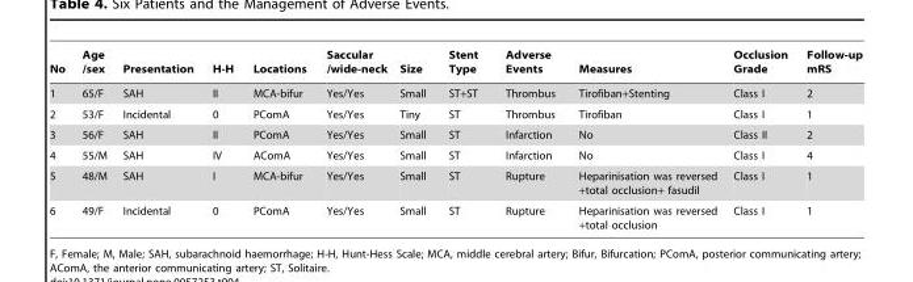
<table><thead><tr><td>No</td><td>Age /sex</td><td>Presentation</td><td>H-H</td><td>Locations</td><td>Saccular /wide-neck</td><td>Size</td><td>Stent Type</td><td>Adverse Events</td><td>Measures</td><td>Occlusion Grade</td><td>Follow-up mRS</td></tr></thead><tbody><tr><td>1</td><td>65/F</td><td>SAH</td><td>II</td><td>MCA-bifur</td><td>Yes/Yes</td><td>Small</td><td>ST+ST</td><td>Thrombus</td><td>Tirofiban+Stenting</td><td>Class I</td><td>2</td></tr><tr><td>2</td><td>53/F</td><td>Incidental</td><td>0</td><td>PComA</td><td>Yes/Yes</td><td>Tiny</td><td>ST</td><td>Thrombus</td><td>Tirofiban</td><td>Class I</td><td>1</td></tr><tr><td>3</td><td>56/F</td><td>SAH</td><td>II</td><td>PComA</td><td>Yes/Yes</td><td>Small</td><td>ST</td><td>Infarction</td><td>No</td><td>Class II</td><td>2</td></tr><tr><td>4</td><td>55/M</td><td>SAH</td><td>IV</td><td>AComA</td><td>Yes/Yes</td><td>Small</td><td>ST</td><td>Infarction</td><td>No</td><td>Class I</td><td>4</td></tr><tr><td>5</td><td>48/M</td><td>SAH</td><td>I</td><td>MCA-bifur</td><td>Yes/Yes</td><td>Small</td><td>ST</td><td>Rupture</td><td>Heparinisation was reversed +total occlusion+ fasudil</td><td>Class I</td><td>1</td></tr><tr><td>6</td><td>49/F</td><td>Incidental</td><td>0</td><td>PComA</td><td>Yes/Yes</td><td>Small</td><td>ST</td><td>Rupture</td><td>Heparinisation was reversed +total occlusion</td><td>Class I</td><td>1</td></tr></tbody></table>